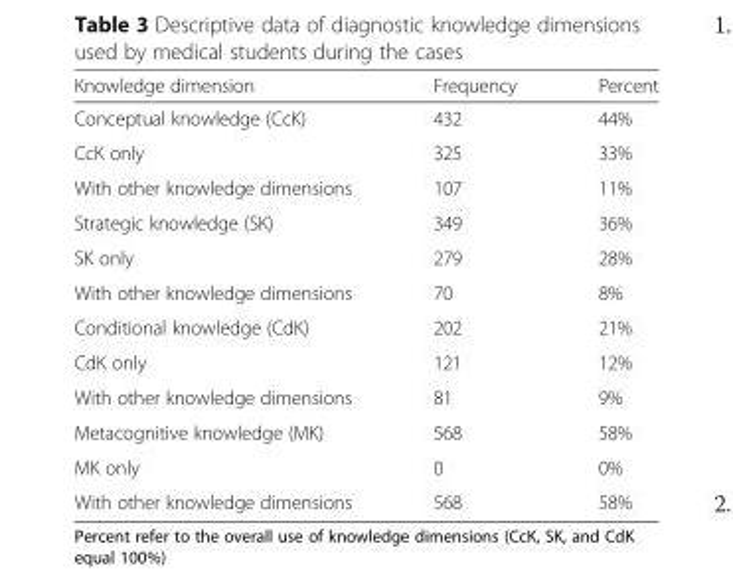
<table><thead><tr><td>Knowledge dimension</td><td>Frequency</td><td>Percent</td></tr></thead><tbody><tr><td>Conceptual knowledge (CcK)</td><td>432</td><td>44%</td></tr><tr><td>CcK only</td><td>325</td><td>33%</td></tr><tr><td>With other knowledge dimensions</td><td>107</td><td>11%</td></tr><tr><td>Strategic knowledge (SK)</td><td>349</td><td>36%</td></tr><tr><td>SK only</td><td>279</td><td>28%</td></tr><tr><td>With other knowledge dimensions</td><td>70</td><td>8%</td></tr><tr><td>Conditional knowledge (CdK)</td><td>202</td><td>21%</td></tr><tr><td>CdK only</td><td>121</td><td>12%</td></tr><tr><td>With other knowledge dimensions</td><td>81</td><td>9%</td></tr><tr><td>Metacognitive knowledge (MK)</td><td>568</td><td>58%</td></tr><tr><td>MK only</td><td>0</td><td>0%</td></tr><tr><td>With other knowledge dimensions</td><td>568</td><td>58%</td></tr></tbody></table>